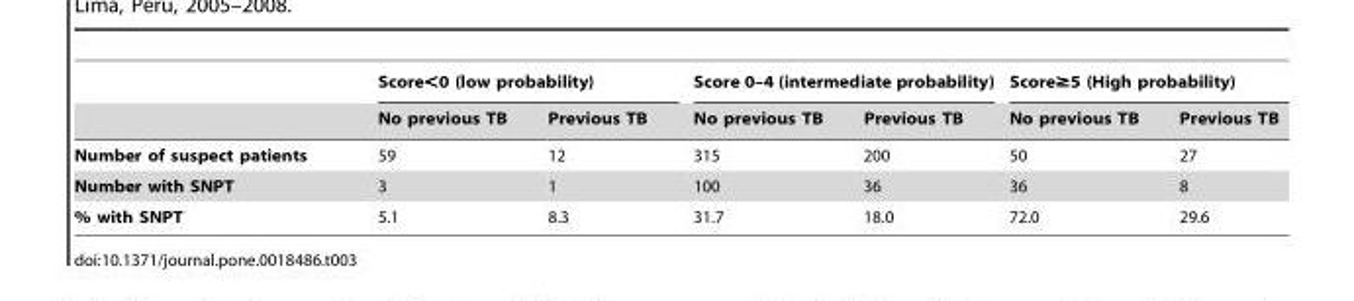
<table><thead><tr><td rowspan="2"></td><td colspan="2">Score&lt;0 (low probability)</td><td colspan="2">Score 0–4 (intermediate probability)</td><td colspan="2">Score≥5 (High probability)</td></tr><tr><td>No previous TB</td><td>Previous TB</td><td>No previous TB</td><td>Previous TB</td><td>No previous TB</td><td>Previous TB</td></tr></thead><tbody><tr><td>Number of suspect patients</td><td>59</td><td>12</td><td>315</td><td>200</td><td>50</td><td>27</td></tr><tr><td>Number with SNPT</td><td>3</td><td>1</td><td>100</td><td>36</td><td>36</td><td>8</td></tr><tr><td>% with SNPT</td><td>5.1</td><td>8.3</td><td>31.7</td><td>18.0</td><td>72.0</td><td>29.6</td></tr></tbody></table>